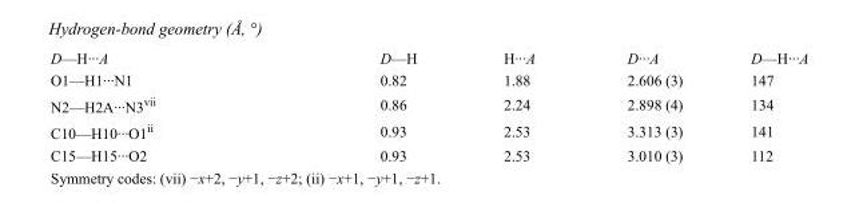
<table><tbody><tr><td>D—H···A</td><td>D—H</td><td>H···A</td><td>D···A</td><td>D—H···A</td></tr><tr><td>O1—H1···N1</td><td>0.82</td><td>1.88</td><td>2.606 (3)</td><td>147</td></tr><tr><td>N2—H2A···N3<sup>vii</sup></td><td>0.86</td><td>2.24</td><td>2.898 (4)</td><td>134</td></tr><tr><td>C10—H10···O1<sup>ii</sup></td><td>0.93</td><td>2.53</td><td>3.313 (3)</td><td>141</td></tr><tr><td>C15—H15···O2</td><td>0.93</td><td>2.53</td><td>3.010 (3)</td><td>112</td></tr></tbody></table>